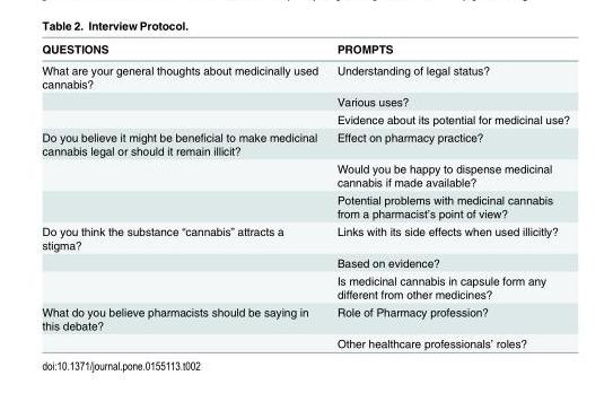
<table><thead><tr><td>QUESTIONS</td><td>PROMPTS</td></tr></thead><tbody><tr><td rowspan="3">What are your general thoughts about medicinally used cannabis?</td><td>Understanding of legal status?</td></tr><tr><td>Various uses?</td></tr><tr><td>Evidence about its potential for medicinal use?</td></tr><tr><td rowspan="3">Do you believe it might be beneficial to make medicinal cannabis legal or should it remain illicit?</td><td>Effect on pharmacy practice?</td></tr><tr><td>Would you be happy to dispense medicinal cannabis if made available?</td></tr><tr><td>Potential problems with medicinal cannabis from a pharmacist’s point of view?</td></tr><tr><td rowspan="3">Do you think the substance “cannabis” attracts a stigma?</td><td>Links with its side effects when used illicitly?</td></tr><tr><td>Based on evidence?</td></tr><tr><td>Is medicinal cannabis in capsule form any different from other medicines?</td></tr><tr><td rowspan="2">What do you believe pharmacists should be saying in this debate?</td><td>Role of Pharmacy profession?</td></tr><tr><td>Other healthcare professionals’ roles?</td></tr></tbody></table>